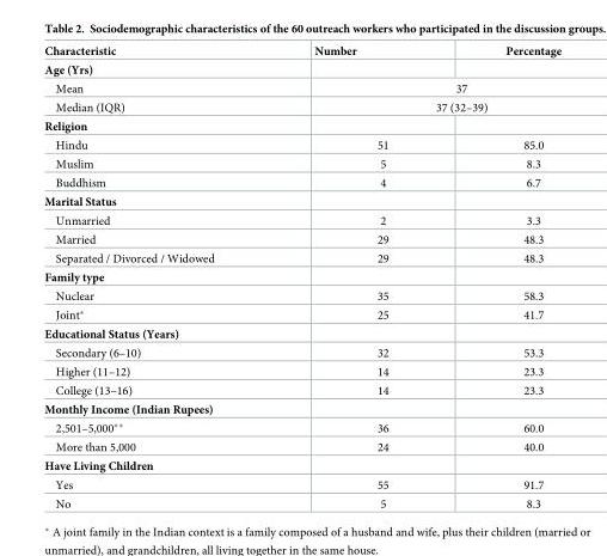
<table><thead><tr><td>Characteristic</td><td>Number</td><td>Percentage</td></tr></thead><tbody><tr><td colspan="3">Age (Yrs)</td></tr><tr><td>Mean</td><td colspan="2">37</td></tr><tr><td>Median (IQR)</td><td colspan="2">37 (32–39)</td></tr><tr><td colspan="3">Religion</td></tr><tr><td>Hindu</td><td>51</td><td>85.0</td></tr><tr><td>Muslim</td><td>5</td><td>8.3</td></tr><tr><td>Buddhism</td><td>4</td><td>6.7</td></tr><tr><td colspan="3">Marital Status</td></tr><tr><td>Unmarried</td><td>2</td><td>3.3</td></tr><tr><td>Married</td><td>29</td><td>48.3</td></tr><tr><td>Separated / Divorced / Widowed</td><td>29</td><td>48.3</td></tr><tr><td colspan="3">Family type</td></tr><tr><td>Nuclear</td><td>35</td><td>58.3</td></tr><tr><td>Joint*</td><td>25</td><td>41.7</td></tr><tr><td colspan="3">Educational Status (Years)</td></tr><tr><td>Secondary (6–10)</td><td>32</td><td>53.3</td></tr><tr><td>Higher (11–12)</td><td>14</td><td>23.3</td></tr><tr><td>College (13–16)</td><td>14</td><td>23.3</td></tr><tr><td colspan="3">Monthly Income (Indian Rupees)</td></tr><tr><td>2,501–5,000**</td><td>36</td><td>60.0</td></tr><tr><td>More than 5,000</td><td>24</td><td>40.0</td></tr><tr><td colspan="3">Have Living Children</td></tr><tr><td>Yes</td><td>55</td><td>91.7</td></tr><tr><td>No</td><td>5</td><td>8.3</td></tr></tbody></table>